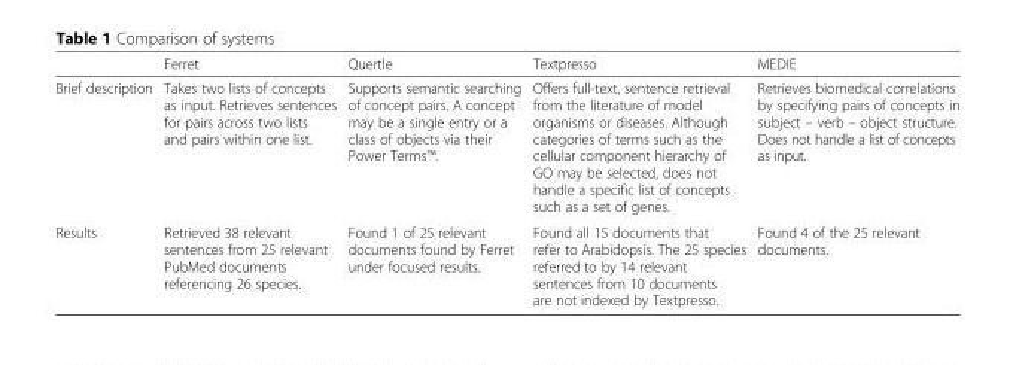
<table><thead><tr><td></td><td>Ferret</td><td>Quertle</td><td>Textpresso</td><td>MEDIE</td></tr></thead><tbody><tr><td>Brief description</td><td>Takes two lists of concepts as input. Retrieves sentences for pairs across two lists and pairs within one list.</td><td>Supports semantic searching of concept pairs. A concept may be a single entry or a class of objects via their Power Terms™.</td><td>Offers full-text, sentence retrieval from the literature of model organisms or diseases. Although categories of terms such as the cellular component hierarchy of GO may be selected, does not handle a specific list of concepts such as a set of genes.</td><td>Retrieves biomedical correlations by specifying pairs of concepts in subject – verb – object structure. Does not handle a list of concepts as input.</td></tr><tr><td>Results</td><td>Retrieved 38 relevant sentences from 25 relevant PubMed documents referencing 26 species.</td><td>Found 1 of 25 relevant documents found by Ferret under focused results.</td><td>Found all 15 documents that refer to Arabidopsis. The 25 species referred to by 14 relevant sentences from 10 documents are not indexed by Textpresso.</td><td>Found 4 of the 25 relevant documents.</td></tr></tbody></table>